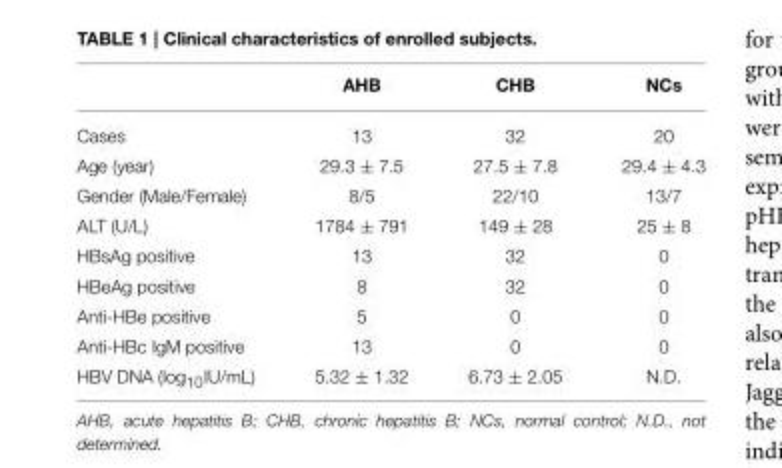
<table><thead><tr><td></td><td>AHB</td><td>CHB</td><td>NCs</td></tr></thead><tbody><tr><td>Cases</td><td>13</td><td>32</td><td>20</td></tr><tr><td>Age (year)</td><td>29.3 ± 7.5</td><td>27.5 ± 7.8</td><td>29.4 ± 4.3</td></tr><tr><td>Gender (Male/Female)</td><td>8/5</td><td>22/10</td><td>13/7</td></tr><tr><td>ALT (U/L)</td><td>1784 ± 791</td><td>149 ± 28</td><td>25 ± 8</td></tr><tr><td>HBsAg positive</td><td>13</td><td>32</td><td>0</td></tr><tr><td>HBeAg positive</td><td>8</td><td>32</td><td>0</td></tr><tr><td>Anti-HBe positive</td><td>5</td><td>0</td><td>0</td></tr><tr><td>Anti-HBc IgM positive</td><td>13</td><td>0</td><td>0</td></tr><tr><td>HBV DNA (log10IU/mL)</td><td>5.32 ± 1.32</td><td>6.73 ± 2.05</td><td>N.D.</td></tr></tbody></table>